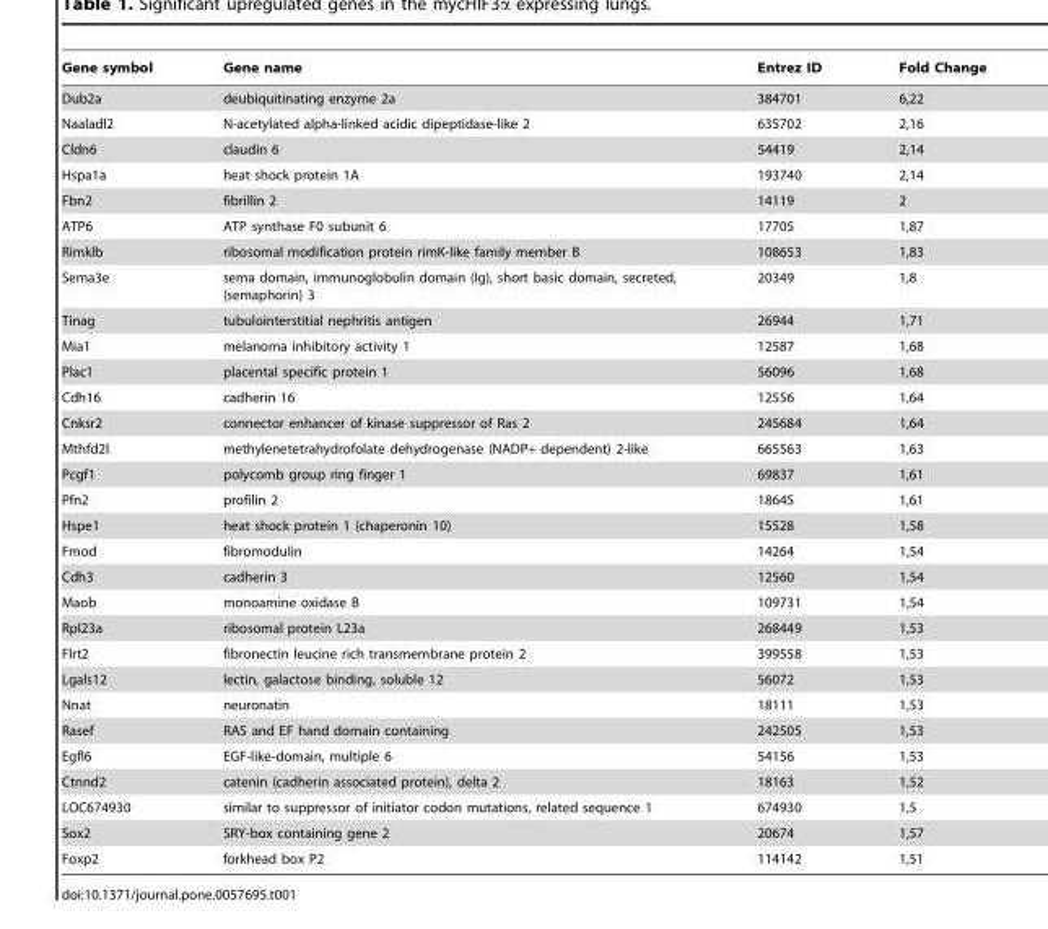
<table><thead><tr><td>Gene symbol</td><td>Gene name</td><td>Entrez ID</td><td>Fold Change</td></tr></thead><tbody><tr><td>Dub2a</td><td>deubiquitinating enzyme 2a</td><td>384701</td><td>6,22</td></tr><tr><td>Naaladl2</td><td>N-acetylated alpha-linked acidic dipeptidase-like 2</td><td>635702</td><td>2,16</td></tr><tr><td>Cldn6</td><td>claudin 6</td><td>54419</td><td>2,14</td></tr><tr><td>Hspa1a</td><td>heat shock protein 1A</td><td>193740</td><td>2,14</td></tr><tr><td>Fbn2</td><td>fibrillin 2</td><td>14119</td><td>2</td></tr><tr><td>ATP6</td><td>ATP synthase F0 subunit 6</td><td>17705</td><td>1,87</td></tr><tr><td>Rimklb</td><td>ribosomal modification protein rimK-like family member B</td><td>108653</td><td>1,83</td></tr><tr><td>Sema3e</td><td>sema domain, immunoglobulin domain (Ig), short basic domain, secreted, (semaphorin) 3</td><td>20349</td><td>1,8</td></tr><tr><td>Tinag</td><td>tubulointerstitial nephritis antigen</td><td>26944</td><td>1,71</td></tr><tr><td>Mia1</td><td>melanoma inhibitory activity 1</td><td>12587</td><td>1,68</td></tr><tr><td>Plac1</td><td>placental specific protein 1</td><td>56096</td><td>1,68</td></tr><tr><td>Cdh16</td><td>cadherin 16</td><td>12556</td><td>1,64</td></tr><tr><td>Cnksr2</td><td>connector enhancer of kinase suppressor of Ras 2</td><td>245684</td><td>1,64</td></tr><tr><td>Mthfd2l</td><td>methylenetetrahydrofolate dehydrogenase (NADP+ dependent) 2-like</td><td>665563</td><td>1,63</td></tr><tr><td>Pcgf1</td><td>polycomb group ring finger 1</td><td>69837</td><td>1,61</td></tr><tr><td>Pfn2</td><td>profilin 2</td><td>18645</td><td>1,61</td></tr><tr><td>Hspe1</td><td>heat shock protein 1 (chaperonin 10)</td><td>15528</td><td>1,58</td></tr><tr><td>Fmod</td><td>fibromodulin</td><td>14264</td><td>1,54</td></tr><tr><td>Cdh3</td><td>cadherin 3</td><td>12560</td><td>1,54</td></tr><tr><td>Maob</td><td>monoamine oxidase B</td><td>109731</td><td>1,54</td></tr><tr><td>Rpl23a</td><td>ribosomal protein L23a</td><td>268449</td><td>1,53</td></tr><tr><td>Flrt2</td><td>fibronectin leucine rich transmembrane protein 2</td><td>399558</td><td>1,53</td></tr><tr><td>Lgals12</td><td>lectin, galactose binding, soluble 12</td><td>56072</td><td>1,53</td></tr><tr><td>Nnat</td><td>neuronatin</td><td>18111</td><td>1,53</td></tr><tr><td>Rasef</td><td>RAS and EF hand domain containing</td><td>242505</td><td>1,53</td></tr><tr><td>Egfl6</td><td>EGF-like-domain, multiple 6</td><td>54156</td><td>1,53</td></tr><tr><td>Ctnnd2</td><td>catenin (cadherin associated protein), delta 2</td><td>18163</td><td>1,52</td></tr><tr><td>LOC674930</td><td>similar to suppressor of initiator codon mutations, related sequence 1</td><td>674930</td><td>1,5</td></tr><tr><td>Sox2</td><td>SRY-box containing gene 2</td><td>20674</td><td>1,57</td></tr><tr><td>Foxp2</td><td>forkhead box P2</td><td>114142</td><td>1,51</td></tr></tbody></table>